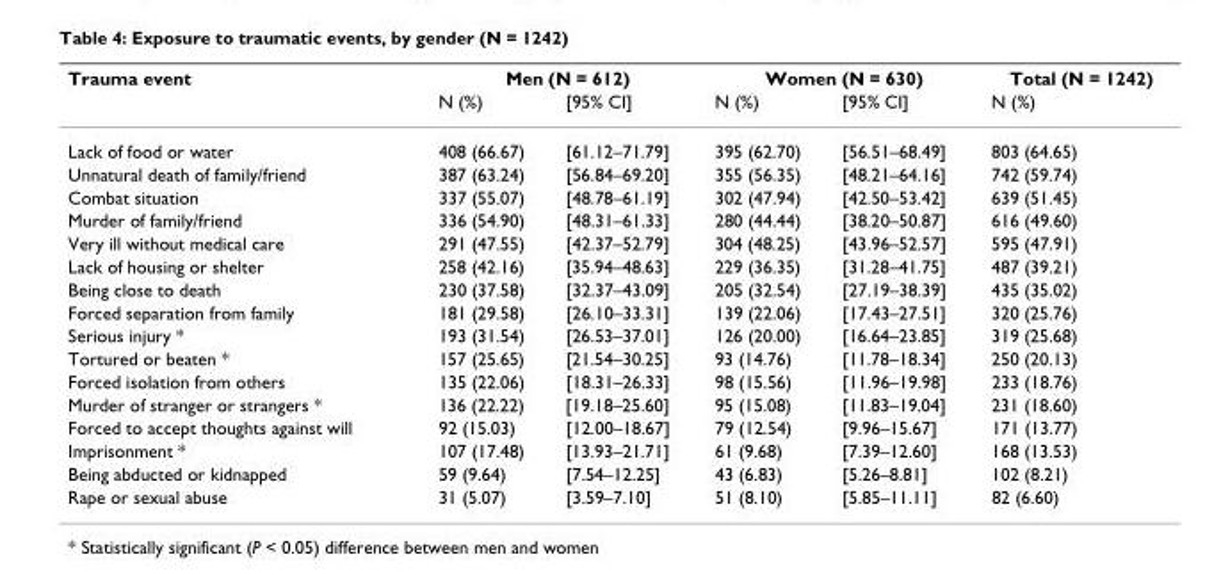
<table><thead><tr><td rowspan="2">Trauma event</td><td colspan="2">Men (N = 612)</td><td colspan="2">Women (N = 630)</td><td rowspan="2">Total (N = 1242) N (%)</td></tr><tr><td>N (%)</td><td>[95% CI]</td><td>N (%)</td><td>[95% CI]</td></tr></thead><tbody><tr><td>Lack of food or water</td><td>408 (66.67)</td><td>[61.12–71.79]</td><td>395 (62.70)</td><td>[56.51–68.49]</td><td>803 (64.65)</td></tr><tr><td>Unnatural death of family/friend</td><td>387 (63.24)</td><td>[56.84–69.20]</td><td>355 (56.35)</td><td>[48.21–64.16]</td><td>742 (59.74)</td></tr><tr><td>Combat situation</td><td>337 (55.07)</td><td>[48.78–61.19]</td><td>302 (47.94)</td><td>[42.50–53.42]</td><td>639 (51.45)</td></tr><tr><td>Murder of family/friend</td><td>336 (54.90)</td><td>[48.31–61.33]</td><td>280 (44.44)</td><td>[38.20–50.87]</td><td>616 (49.60)</td></tr><tr><td>Very ill without medical care</td><td>291 (47.55)</td><td>[42.37–52.79]</td><td>304 (48.25)</td><td>[43.96–52.57]</td><td>595 (47.91)</td></tr><tr><td>Lack of housing or shelter</td><td>258 (42.16)</td><td>[35.94–48.63]</td><td>229 (36.35)</td><td>[31.28–41.75]</td><td>487 (39.21)</td></tr><tr><td>Being close to death</td><td>230 (37.58)</td><td>[32.37–43.09]</td><td>205 (32.54)</td><td>[27.19–38.39]</td><td>435 (35.02)</td></tr><tr><td>Forced separation from family</td><td>181 (29.58)</td><td>[26.10–33.31]</td><td>139 (22.06)</td><td>[17.43–27.51]</td><td>320 (25.76)</td></tr><tr><td>Serious injury *</td><td>193 (31.54)</td><td>[26.53–37.01]</td><td>126 (20.00)</td><td>[16.64–23.85]</td><td>319 (25.68)</td></tr><tr><td>Tortured or beaten *</td><td>157 (25.65)</td><td>[21.54–30.25]</td><td>93 (14.76)</td><td>[11.78–18.34]</td><td>250 (20.13)</td></tr><tr><td>Forced isolation from others</td><td>135 (22.06)</td><td>[18.31–26.33]</td><td>98 (15.56)</td><td>[11.96–19.98]</td><td>233 (18.76)</td></tr><tr><td>Murder of stranger or strangers *</td><td>136 (22.22)</td><td>[19.18–25.60]</td><td>95 (15.08)</td><td>[11.83–19.04]</td><td>231 (18.60)</td></tr><tr><td>Forced to accept thoughts against will</td><td>92 (15.03)</td><td>[12.00–18.67]</td><td>79 (12.54)</td><td>[9.96–15.67]</td><td>171 (13.77)</td></tr><tr><td>Imprisonment *</td><td>107 (17.48)</td><td>[13.93–21.71]</td><td>61 (9.68)</td><td>[7.39–12.60]</td><td>168 (13.53)</td></tr><tr><td>Being abducted or kidnapped</td><td>59 (9.64)</td><td>[7.54–12.25]</td><td>43 (6.83)</td><td>[5.26–8.81]</td><td>102 (8.21)</td></tr><tr><td>Rape or sexual abuse</td><td>31 (5.07)</td><td>[3.59–7.10]</td><td>51 (8.10)</td><td>[5.85–11.11]</td><td>82 (6.60)</td></tr></tbody></table>